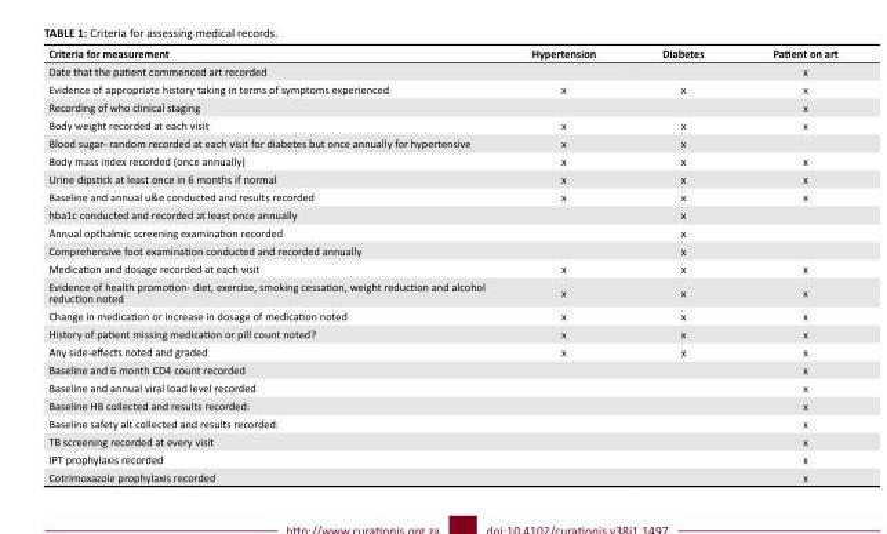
<table><thead><tr><td>Criteria for measurement</td><td>Hypertension</td><td>Diabetes</td><td>Patient on art</td></tr></thead><tbody><tr><td>Date that the patient commenced art recorded</td><td></td><td></td><td>x</td></tr><tr><td>Evidence of appropriate history taking in terms of symptoms experienced</td><td>x</td><td>x</td><td>x</td></tr><tr><td>Recording of who clinical staging</td><td></td><td></td><td>x</td></tr><tr><td>Body weight recorded at each visit</td><td>x</td><td>x</td><td>x</td></tr><tr><td>Blood sugar- random recorded at each visit for diabetes but once annually for hypertensive</td><td>x</td><td>x</td><td></td></tr><tr><td>Body mass index recorded (once annually)</td><td>x</td><td>x</td><td>x</td></tr><tr><td>Urine dipstick at least once in 6 months if normal</td><td>x</td><td>x</td><td>x</td></tr><tr><td>Baseline and annual u&amp;e conducted and results recorded</td><td>x</td><td>x</td><td>x</td></tr><tr><td>hba1c conducted and recorded at least once annually</td><td></td><td>x</td><td></td></tr><tr><td>Annual opthalmic screening examination recorded</td><td></td><td>x</td><td></td></tr><tr><td>Comprehensive foot examination conducted and recorded annually</td><td></td><td>x</td><td></td></tr><tr><td>Medication and dosage recorded at each visit</td><td>x</td><td>x</td><td>x</td></tr><tr><td>Evidence of health promotion- diet, exercise, smoking cessation, weight reduction and alcohol reduction noted</td><td>x</td><td>x</td><td>x</td></tr><tr><td>Change in medication or increase in dosage of medication noted</td><td>x</td><td>x</td><td>x</td></tr><tr><td>History of patient missing medication or pill count noted?</td><td>x</td><td>x</td><td>x</td></tr><tr><td>Any side-effects noted and graded</td><td>x</td><td>x</td><td>x</td></tr><tr><td>Baseline and 6 month CD4 count recorded</td><td></td><td></td><td>x</td></tr><tr><td>Baseline and annual viral load level recorded</td><td></td><td></td><td>x</td></tr><tr><td>Baseline HB collected and results recorded:</td><td></td><td></td><td>x</td></tr><tr><td>Baseline safety alt collected and results recorded:</td><td></td><td></td><td>x</td></tr><tr><td>TB screening recorded at every visit</td><td></td><td></td><td>x</td></tr><tr><td>IPT prophylaxis recorded</td><td></td><td></td><td>x</td></tr><tr><td>Cotrimoxazole prophylaxis recorded</td><td></td><td></td><td>x</td></tr></tbody></table>